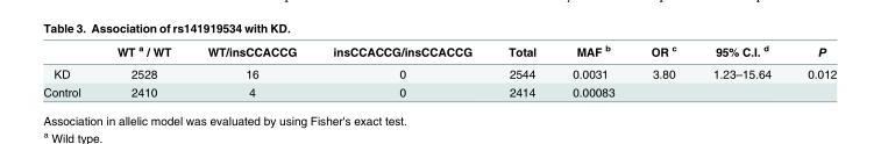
<table><thead><tr><td></td><td>WT <sup>a</sup> / WT</td><td>WT/insCCACCG</td><td>insCCACCG/insCCACCG</td><td>Total</td><td>MAF <sup>b</sup></td><td>OR <sup>c</sup></td><td>95% C.I. <sup>d</sup></td><td>P</td></tr></thead><tbody><tr><td>KD</td><td>2528</td><td>16</td><td>0</td><td>2544</td><td>0.0031</td><td>3.80</td><td>1.23–15.64</td><td>0.012</td></tr><tr><td>Control</td><td>2410</td><td>4</td><td>0</td><td>2414</td><td>0.00083</td><td></td><td></td><td></td></tr></tbody></table>